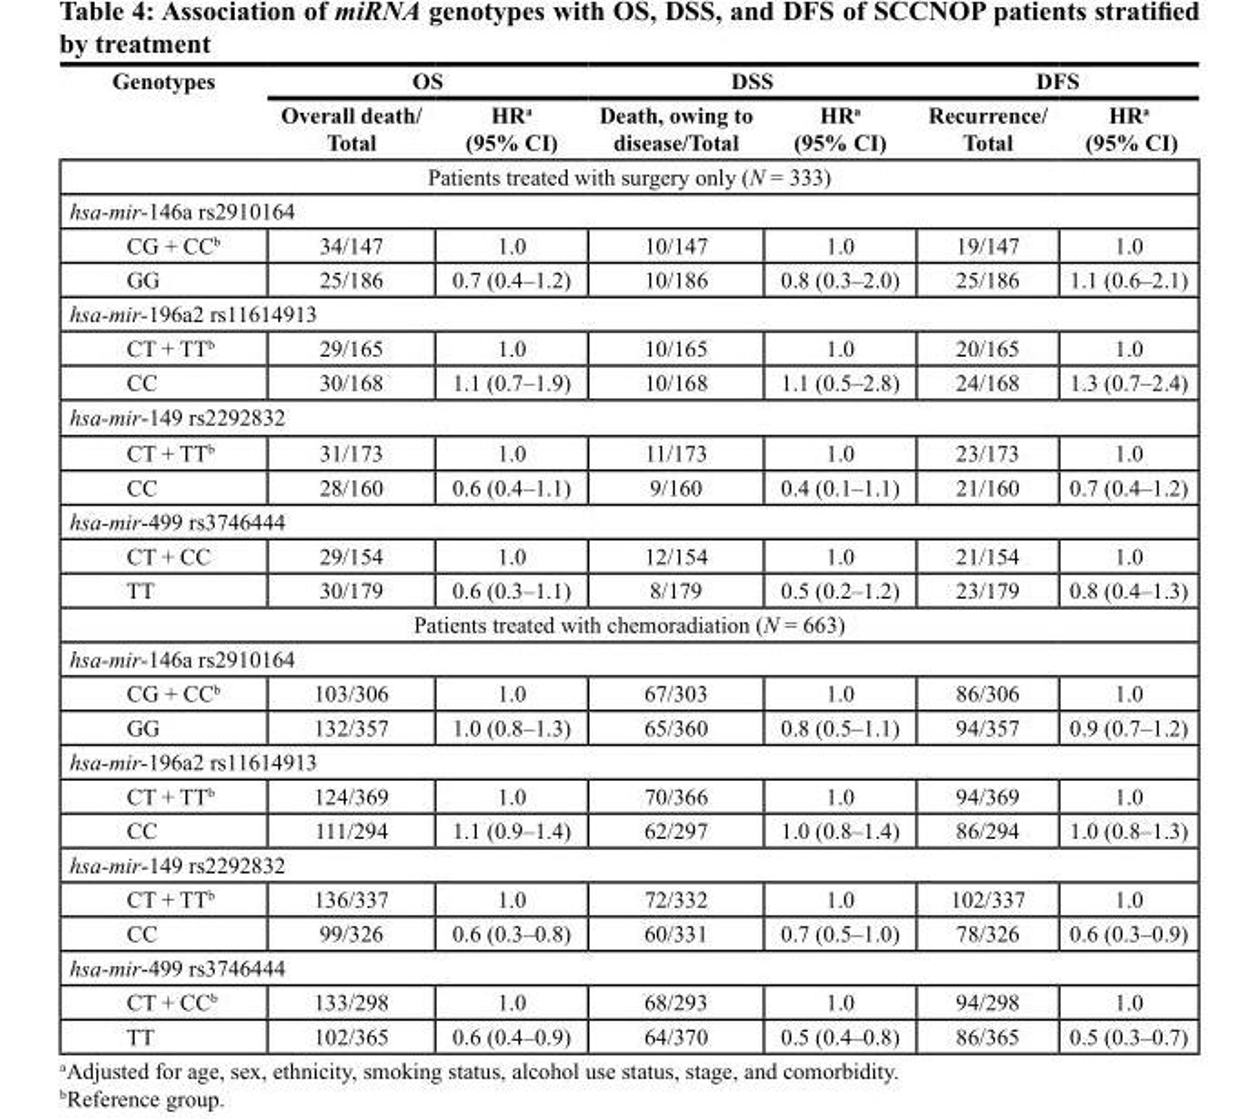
<table><thead><tr><td rowspan="2">Genotypes</td><td colspan="2">OS</td><td colspan="2">DSS</td><td colspan="2">DFS</td></tr><tr><td>Overall death/ Total</td><td>HR<sup>a</sup> (95% CI)</td><td>Death, owing to disease/Total</td><td>HR<sup>a</sup> (95% CI)</td><td>Recurrence/ Total</td><td>HR<sup>a</sup> (95% CI)</td></tr></thead><tbody><tr><td colspan="7">Patients treated with surgery only (N = 333)</td></tr><tr><td colspan="7">hsa-mir-146a rs2910164</td></tr><tr><td>CG + CC<sup>b</sup></td><td>34/147</td><td>1.0</td><td>10/147</td><td>1.0</td><td>19/147</td><td>1.0</td></tr><tr><td>GG</td><td>25/186</td><td>0.7 (0.4–1.2)</td><td>10/186</td><td>0.8 (0.3–2.0)</td><td>25/186</td><td>1.1 (0.6–2.1)</td></tr><tr><td colspan="7">hsa-mir-196a2 rs11614913</td></tr><tr><td>CT + TT<sup>b</sup></td><td>29/165</td><td>1.0</td><td>10/165</td><td>1.0</td><td>20/165</td><td>1.0</td></tr><tr><td>CC</td><td>30/168</td><td>1.1 (0.7–1.9)</td><td>10/168</td><td>1.1 (0.5–2.8)</td><td>24/168</td><td>1.3 (0.7–2.4)</td></tr><tr><td colspan="7">hsa-mir-149 rs2292832</td></tr><tr><td>CT + TT<sup>b</sup></td><td>31/173</td><td>1.0</td><td>11/173</td><td>1.0</td><td>23/173</td><td>1.0</td></tr><tr><td>CC</td><td>28/160</td><td>0.6 (0.4–1.1)</td><td>9/160</td><td>0.4 (0.1–1.1)</td><td>21/160</td><td>0.7 (0.4–1.2)</td></tr><tr><td colspan="7">hsa-mir-499 rs3746444</td></tr><tr><td>CT + CC</td><td>29/154</td><td>1.0</td><td>12/154</td><td>1.0</td><td>21/154</td><td>1.0</td></tr><tr><td>TT</td><td>30/179</td><td>0.6 (0.3–1.1)</td><td>8/179</td><td>0.5 (0.2–1.2)</td><td>23/179</td><td>0.8 (0.4–1.3)</td></tr><tr><td colspan="7">Patients treated with chemoradiation (N = 663)</td></tr><tr><td colspan="7">hsa-mir-146a rs2910164</td></tr><tr><td>CG + CC<sup>b</sup></td><td>103/306</td><td>1.0</td><td>67/303</td><td>1.0</td><td>86/306</td><td>1.0</td></tr><tr><td>GG</td><td>132/357</td><td>1.0 (0.8–1.3)</td><td>65/360</td><td>0.8 (0.5–1.1)</td><td>94/357</td><td>0.9 (0.7–1.2)</td></tr><tr><td colspan="7">hsa-mir-196a2 rs11614913</td></tr><tr><td>CT + TT<sup>b</sup></td><td>124/369</td><td>1.0</td><td>70/366</td><td>1.0</td><td>94/369</td><td>1.0</td></tr><tr><td>CC</td><td>111/294</td><td>1.1 (0.9–1.4)</td><td>62/297</td><td>1.0 (0.8–1.4)</td><td>86/294</td><td>1.0 (0.8–1.3)</td></tr><tr><td colspan="7">hsa-mir-149 rs2292832</td></tr><tr><td>CT + TT<sup>b</sup></td><td>136/337</td><td>1.0</td><td>72/332</td><td>1.0</td><td>102/337</td><td>1.0</td></tr><tr><td>CC</td><td>99/326</td><td>0.6 (0.3–0.8)</td><td>60/331</td><td>0.7 (0.5–1.0)</td><td>78/326</td><td>0.6 (0.3–0.9)</td></tr><tr><td colspan="7">hsa-mir-499 rs3746444</td></tr><tr><td>CT + CC<sup>b</sup></td><td>133/298</td><td>1.0</td><td>68/293</td><td>1.0</td><td>94/298</td><td>1.0</td></tr><tr><td>TT</td><td>102/365</td><td>0.6 (0.4–0.9)</td><td>64/370</td><td>0.5 (0.4–0.8)</td><td>86/365</td><td>0.5 (0.3–0.7)</td></tr></tbody></table>